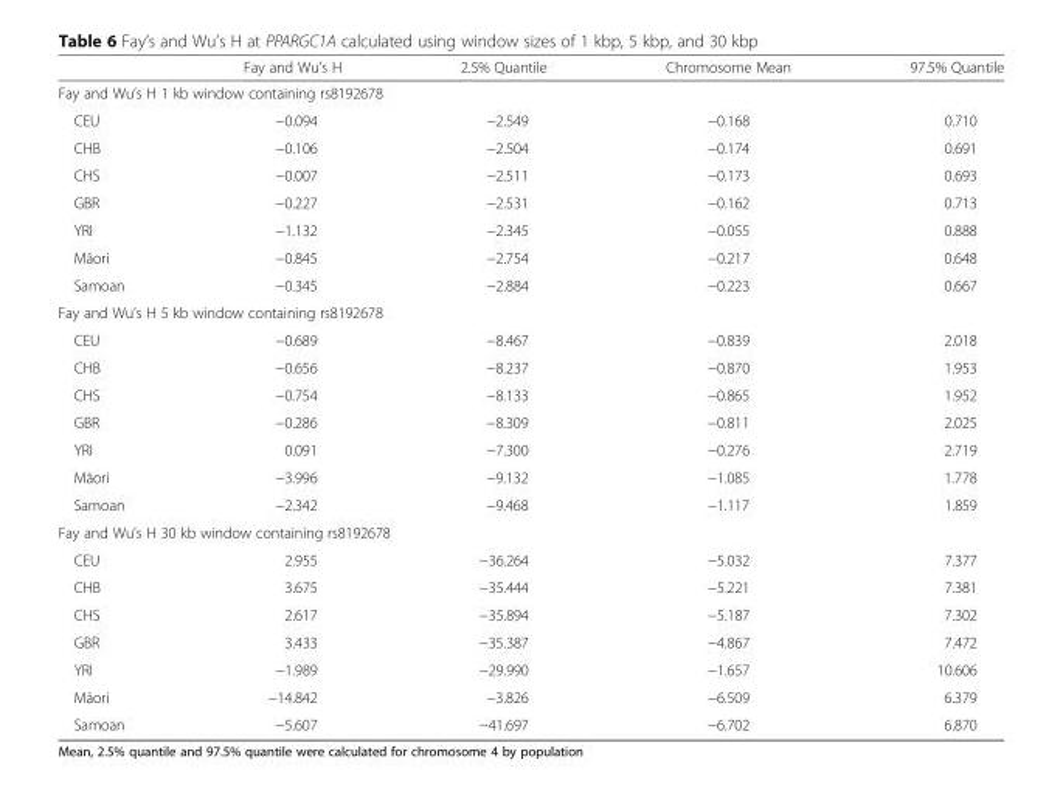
<table><thead><tr><td></td><td>Fay and Wu’s H</td><td>2.5% Quantile</td><td>Chromosome Mean</td><td>97.5% Quantile</td></tr></thead><tbody><tr><td colspan="5">Fay and Wu’s H 1 kb window containing rs8192678</td></tr><tr><td>CEU</td><td>−0.094</td><td>−2.549</td><td>−0.168</td><td>0.710</td></tr><tr><td>CHB</td><td>−0.106</td><td>−2.504</td><td>−0.174</td><td>0.691</td></tr><tr><td>CHS</td><td>−0.007</td><td>−2.511</td><td>−0.173</td><td>0.693</td></tr><tr><td>GBR</td><td>−0.227</td><td>−2.531</td><td>−0.162</td><td>0.713</td></tr><tr><td>YRI</td><td>−1.132</td><td>−2.345</td><td>−0.055</td><td>0.888</td></tr><tr><td>Māori</td><td>−0.845</td><td>−2.754</td><td>−0.217</td><td>0.648</td></tr><tr><td>Samoan</td><td>−0.345</td><td>−2.884</td><td>−0.223</td><td>0.667</td></tr><tr><td colspan="5">Fay and Wu’s H 5 kb window containing rs8192678</td></tr><tr><td>CEU</td><td>−0.689</td><td>−8.467</td><td>−0.839</td><td>2.018</td></tr><tr><td>CHB</td><td>−0.656</td><td>−8.237</td><td>−0.870</td><td>1.953</td></tr><tr><td>CHS</td><td>−0.754</td><td>−8.133</td><td>−0.865</td><td>1.952</td></tr><tr><td>GBR</td><td>−0.286</td><td>−8.309</td><td>−0.811</td><td>2.025</td></tr><tr><td>YRI</td><td>0.091</td><td>−7.300</td><td>−0.276</td><td>2.719</td></tr><tr><td>Māori</td><td>−3.996</td><td>−9.132</td><td>−1.085</td><td>1.778</td></tr><tr><td>Samoan</td><td>−2.342</td><td>−9.468</td><td>−1.117</td><td>1.859</td></tr><tr><td colspan="5">Fay and Wu’s H 30 kb window containing rs8192678</td></tr><tr><td>CEU</td><td>2.955</td><td>−36.264</td><td>−5.032</td><td>7.377</td></tr><tr><td>CHB</td><td>3.675</td><td>−35.444</td><td>−5.221</td><td>7.381</td></tr><tr><td>CHS</td><td>2.617</td><td>−35.894</td><td>−5.187</td><td>7.302</td></tr><tr><td>GBR</td><td>3.433</td><td>−35.387</td><td>−4.867</td><td>7.472</td></tr><tr><td>YRI</td><td>−1.989</td><td>−29.990</td><td>−1.657</td><td>10.606</td></tr><tr><td>Māori</td><td>−14.842</td><td>−3.826</td><td>−6.509</td><td>6.379</td></tr><tr><td>Samoan</td><td>−5.607</td><td>−41.697</td><td>−6.702</td><td>6.870</td></tr></tbody></table>